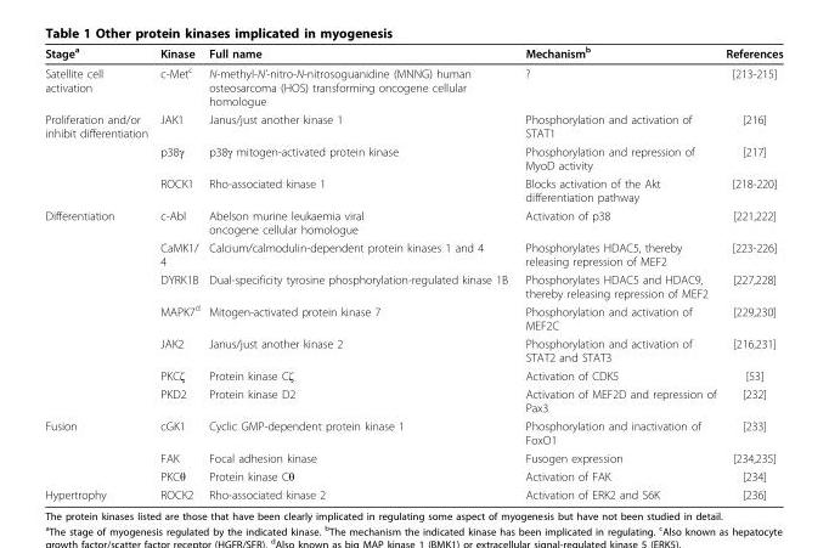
<table><thead><tr><td>Stage<sup>a</sup></td><td>Kinase</td><td>Full name</td><td>Mechanism<sup>b</sup></td><td>References</td></tr></thead><tbody><tr><td>Satellite cell activation</td><td>c-Met<sup>c</sup></td><td>N-methyl-N’-nitro-N-nitrosoguanidine (MNNG) human osteosarcoma (HOS) transforming oncogene cellular homologue</td><td>?</td><td>[213-215]</td></tr><tr><td rowspan="3">Proliferation and/or inhibit differentiation</td><td>JAK1</td><td>Janus/just another kinase 1</td><td>Phosphorylation and activation of STAT1</td><td>[216]</td></tr><tr><td>p38γ</td><td>p38γ mitogen-activated protein kinase</td><td>Phosphorylation and repression of MyoD activity</td><td>[217]</td></tr><tr><td>ROCK1</td><td>Rho-associated kinase 1</td><td>Blocks activation of the Akt differentiation pathway</td><td>[218-220]</td></tr><tr><td rowspan="7">Differentiation</td><td>c-Abl</td><td>Abelson murine leukaemia viral oncogene cellular homologue</td><td>Activation of p38</td><td>[221,222]</td></tr><tr><td>CaMK1/ 4</td><td>Calcium/calmodulin-dependent protein kinases 1 and 4</td><td>Phosphorylates HDAC5, thereby releasing repression of MEF2</td><td>[223-226]</td></tr><tr><td>DYRK1B</td><td>Dual-specificity tyrosine phosphorylation-regulated kinase 1B</td><td>Phosphorylates HDAC5 and HDAC9, thereby releasing repression of MEF2</td><td>[227,228]</td></tr><tr><td>MAPK7<sup>d</sup></td><td>Mitogen-activated protein kinase 7</td><td>Phosphorylation and activation of MEF2C</td><td>[229,230]</td></tr><tr><td>JAK2</td><td>Janus/just another kinase 2</td><td>Phosphorylation and activation of STAT2 and STAT3</td><td>[216,231]</td></tr><tr><td>PKCζ</td><td>Protein kinase Cζ</td><td>Activation of CDK5</td><td>[53]</td></tr><tr><td>PKD2</td><td>Protein kinase D2</td><td>Activation of MEF2D and repression of Pax3</td><td>[232]</td></tr><tr><td rowspan="3">Fusion</td><td>cGK1</td><td>Cyclic GMP-dependent protein kinase 1</td><td>Phosphorylation and inactivation of FoxO1</td><td>[233]</td></tr><tr><td>FAK</td><td>Focal adhesion kinase</td><td>Fusogen expression</td><td>[234,235]</td></tr><tr><td>PKCθ</td><td>Protein kinase Cθ</td><td>Activation of FAK</td><td>[234]</td></tr><tr><td>Hypertrophy</td><td>ROCK2</td><td>Rho-associated kinase 2</td><td>Activation of ERK2 and S6K</td><td>[236]</td></tr></tbody></table>